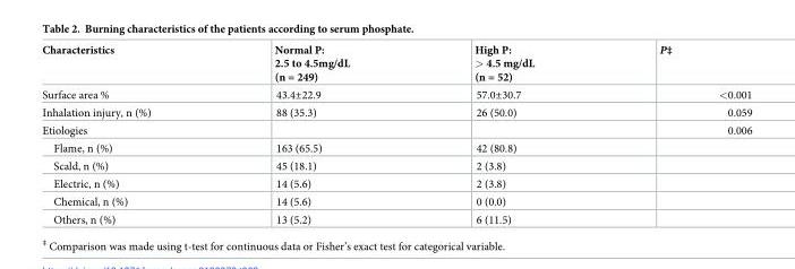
<table><thead><tr><td>Characteristics</td><td>Normal P: 2.5 to 4.5mg/dL (n = 249)</td><td>High P: &gt; 4.5 mg/dL (n = 52)</td><td>P‡</td></tr></thead><tbody><tr><td>Surface area %</td><td>43.4±22.9</td><td>57.0±30.7</td><td>&lt;0.001</td></tr><tr><td>Inhalation injury, n (%)</td><td>88 (35.3)</td><td>26 (50.0)</td><td>0.059</td></tr><tr><td>Etiologies</td><td></td><td></td><td>0.006</td></tr><tr><td>Flame, n (%)</td><td>163 (65.5)</td><td>42 (80.8)</td><td></td></tr><tr><td>Scald, n (%)</td><td>45 (18.1)</td><td>2 (3.8)</td><td></td></tr><tr><td>Electric, n (%)</td><td>14 (5.6)</td><td>2 (3.8)</td><td></td></tr><tr><td>Chemical, n (%)</td><td>14 (5.6)</td><td>0 (0.0)</td><td></td></tr><tr><td>Others, n (%)</td><td>13 (5.2)</td><td>6 (11.5)</td><td></td></tr></tbody></table>